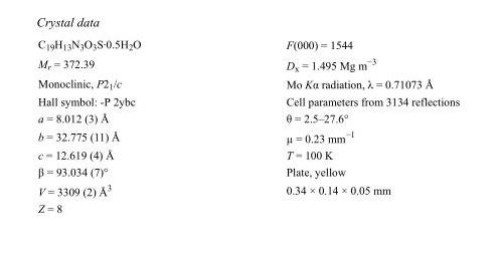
<table><tbody><tr><td>C<sub>19</sub>H<sub>13</sub>N<sub>3</sub>O<sub>3</sub>S·0.5H<sub>2</sub>O</td><td>F(000) = 1544</td></tr><tr><td>M<sub>r</sub> = 372.39</td><td>D<sub>x</sub> = 1.495 Mg m<sup>−3</sup></td></tr><tr><td>Monoclinic, P2<sub>1</sub>/c</td><td>Mo Kα radiation, λ = 0.71073 Å</td></tr><tr><td>Hall symbol: -P 2ybc</td><td>Cell parameters from 3134 reflections</td></tr><tr><td>a = 8.012 (3) Å</td><td>θ = 2.5–27.6°</td></tr><tr><td>b = 32.775 (11) Å</td><td>µ = 0.23 mm<sup>−1</sup></td></tr><tr><td>c = 12.619 (4) Å</td><td>T = 100 K</td></tr><tr><td>β = 93.034 (7)°</td><td>Plate, yellow</td></tr><tr><td>V = 3309 (2) Å<sup>3</sup></td><td>0.34 × 0.14 × 0.05 mm</td></tr><tr><td>Z = 8</td><td></td></tr></tbody></table>